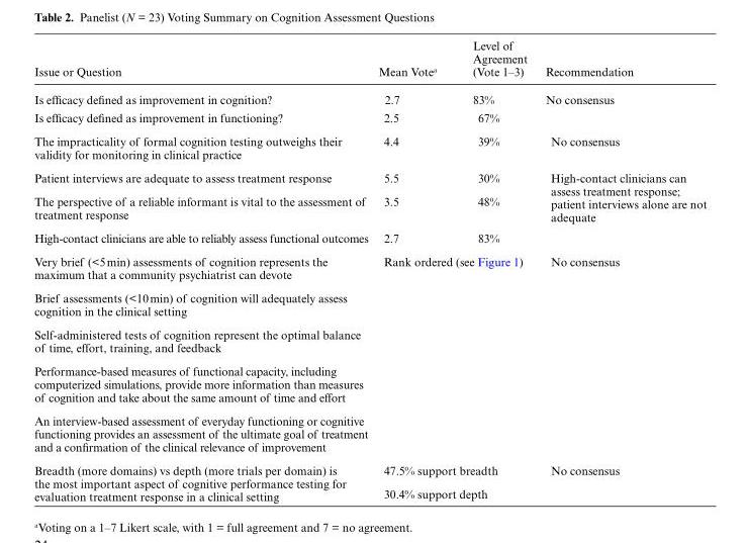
<table><thead><tr><td>Issue or Question</td><td>Mean Vote<sup>a</sup></td><td>Level of Agreement (Vote 1–3)</td><td>Recommendation</td></tr></thead><tbody><tr><td>Is efficacy defined as improvement in cognition?</td><td>2.7</td><td>83%</td><td rowspan="2">No consensus</td></tr><tr><td>Is efficacy defined as improvement in functioning?</td><td>2.5</td><td>67%</td></tr><tr><td>The impracticality of formal cognition testing outweighs their validity for monitoring in clinical practice</td><td>4.4</td><td>39%</td><td>No consensus</td></tr><tr><td>Patient interviews are adequate to assess treatment response</td><td>5.5</td><td>30%</td><td rowspan="3">High-contact clinicians can assess treatment response; patient interviews alone are not adequate</td></tr><tr><td>The perspective of a reliable informant is vital to the assessment of treatment response</td><td>3.5</td><td>48%</td></tr><tr><td>High-contact clinicians are able to reliably assess functional outcomes</td><td>2.7</td><td>83%</td></tr><tr><td>Very brief (&lt;5 min) assessments of cognition represents the maximum that a community psychiatrist can devote</td><td rowspan="5" colspan="2">Rank ordered (see Figure 1)</td><td rowspan="5">No consensus</td></tr><tr><td>Brief assessments (&lt;10 min) of cognition will adequately assess cognition in the clinical setting</td></tr><tr><td>Self-administered tests of cognition represent the optimal balance of time, effort, training, and feedback</td></tr><tr><td>Performance-based measures of functional capacity, including computerized simulations, provide more information than measures of cognition and take about the same amount of time and effort</td></tr><tr><td>An interview-based assessment of everyday functioning or cognitive functioning provides an assessment of the ultimate goal of treatment and a confirmation of the clinical relevance of improvement</td></tr><tr><td rowspan="2">Breadth (more domains) vs depth (more trials per domain) is the most important aspect of cognitive performance testing for evaluation treatment response in a clinical setting</td><td colspan="2">47.5% support breadth</td><td rowspan="2">No consensus</td></tr><tr><td colspan="2">30.4% support depth</td></tr></tbody></table>